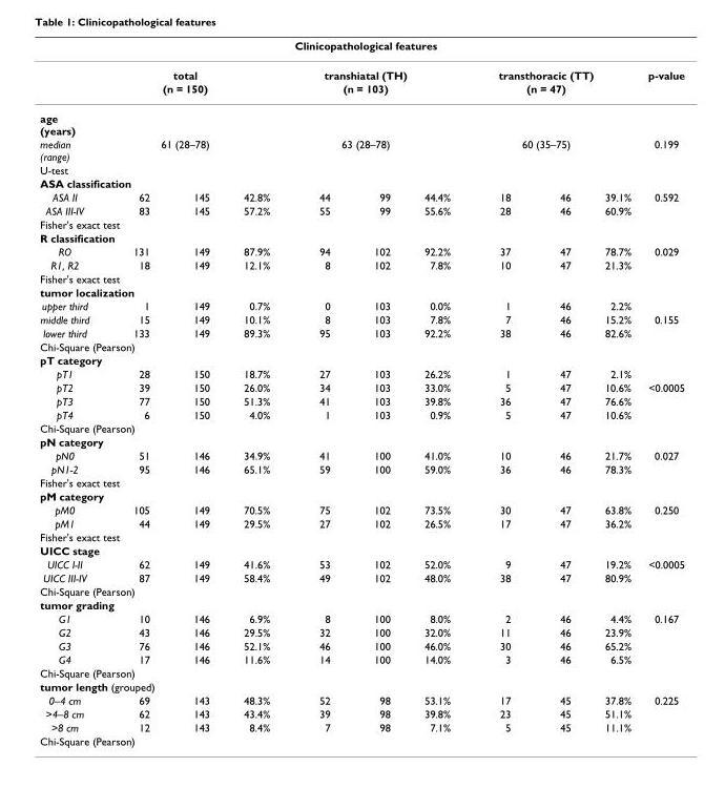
<table><thead><tr><td colspan="11">Clinicopathological features</td></tr><tr><td rowspan="3">age (years)</td><td rowspan="2" colspan="3">total (n = 150)</td><td rowspan="2" colspan="3">transhiatal (TH) (n = 103)</td><td rowspan="2" colspan="3">transthoracic (TT) (n = 47)</td><td rowspan="3">p-value</td></tr><tr></tr><tr><td></td><td></td><td></td><td></td><td></td><td></td><td></td><td></td><td></td></tr></thead><tbody><tr><td>median (range)</td><td colspan="3">61 (28–78)</td><td colspan="3">63 (28–78)</td><td colspan="3">60 (35–75)</td><td>0.199</td></tr><tr><td colspan="11">U-test</td></tr><tr><td colspan="11">ASA classification</td></tr><tr><td>ASA II</td><td>62</td><td>145</td><td>42.8%</td><td>44</td><td>99</td><td>44.4%</td><td>18</td><td>46</td><td>39.1%</td><td>0.592</td></tr><tr><td>ASA III-IV</td><td>83</td><td>145</td><td>57.2%</td><td>55</td><td>99</td><td>55.6%</td><td>28</td><td>46</td><td>60.9%</td><td></td></tr><tr><td colspan="11">Fisher&#x27;s exact test</td></tr><tr><td colspan="11">R classification</td></tr><tr><td>RO</td><td>131</td><td>149</td><td>87.9%</td><td>94</td><td>102</td><td>92.2%</td><td>37</td><td>47</td><td>78.7%</td><td>0.029</td></tr><tr><td>R1, R2</td><td>18</td><td>149</td><td>12.1%</td><td>8</td><td>102</td><td>7.8%</td><td>10</td><td>47</td><td>21.3%</td><td></td></tr><tr><td colspan="11">Fisher&#x27;s exact test</td></tr><tr><td colspan="11">tumor localization</td></tr><tr><td>upper third</td><td>1</td><td>149</td><td>0.7%</td><td>0</td><td>103</td><td>0.0%</td><td>1</td><td>46</td><td>2.2%</td><td></td></tr><tr><td>middle third</td><td>15</td><td>149</td><td>10.1%</td><td>8</td><td>103</td><td>7.8%</td><td>7</td><td>46</td><td>15.2%</td><td>0.155</td></tr><tr><td>lower third</td><td>133</td><td>149</td><td>89.3%</td><td>95</td><td>103</td><td>92.2%</td><td>38</td><td>46</td><td>82.6%</td><td></td></tr><tr><td colspan="11">Chi-Square (Pearson)</td></tr><tr><td colspan="11">pT category</td></tr><tr><td>pT1</td><td>28</td><td>150</td><td>18.7%</td><td>27</td><td>103</td><td>26.2%</td><td>1</td><td>47</td><td>2.1%</td><td></td></tr><tr><td>pT2</td><td>39</td><td>150</td><td>26.0%</td><td>34</td><td>103</td><td>33.0%</td><td>5</td><td>47</td><td>10.6%</td><td>&lt;0.0005</td></tr><tr><td>pT3</td><td>77</td><td>150</td><td>51.3%</td><td>41</td><td>103</td><td>39.8%</td><td>36</td><td>47</td><td>76.6%</td><td></td></tr><tr><td>pT4</td><td>6</td><td>150</td><td>4.0%</td><td>1</td><td>103</td><td>0.9%</td><td>5</td><td>47</td><td>10.6%</td><td></td></tr><tr><td colspan="11">Chi-Square (Pearson)</td></tr><tr><td colspan="11">pN category</td></tr><tr><td>pN0</td><td>51</td><td>146</td><td>34.9%</td><td>41</td><td>100</td><td>41.0%</td><td>10</td><td>46</td><td>21.7%</td><td>0.027</td></tr><tr><td>pN1-2</td><td>95</td><td>146</td><td>65.1%</td><td>59</td><td>100</td><td>59.0%</td><td>36</td><td>46</td><td>78.3%</td><td></td></tr><tr><td colspan="11">Fisher&#x27;s exact test</td></tr><tr><td colspan="11">pM category</td></tr><tr><td>pM0</td><td>105</td><td>149</td><td>70.5%</td><td>75</td><td>102</td><td>73.5%</td><td>30</td><td>47</td><td>63.8%</td><td>0.250</td></tr><tr><td>pM1</td><td>44</td><td>149</td><td>29.5%</td><td>27</td><td>102</td><td>26.5%</td><td>17</td><td>47</td><td>36.2%</td><td></td></tr><tr><td colspan="11">Fisher&#x27;s exact test</td></tr><tr><td colspan="11">UICC stage</td></tr><tr><td>UICC I-II</td><td>62</td><td>149</td><td>41.6%</td><td>53</td><td>102</td><td>52.0%</td><td>9</td><td>47</td><td>19.2%</td><td>&lt;0.0005</td></tr><tr><td>UICC III-IV</td><td>87</td><td>149</td><td>58.4%</td><td>49</td><td>102</td><td>48.0%</td><td>38</td><td>47</td><td>80.9%</td><td></td></tr><tr><td colspan="11">Chi-Square (Pearson)</td></tr><tr><td colspan="11">tumor grading</td></tr><tr><td>G1</td><td>10</td><td>146</td><td>6.9%</td><td>8</td><td>100</td><td>8.0%</td><td>2</td><td>46</td><td>4.4%</td><td>0.167</td></tr><tr><td>G2</td><td>43</td><td>146</td><td>29.5%</td><td>32</td><td>100</td><td>32.0%</td><td>11</td><td>46</td><td>23.9%</td><td></td></tr><tr><td>G3</td><td>76</td><td>146</td><td>52.1%</td><td>46</td><td>100</td><td>46.0%</td><td>30</td><td>46</td><td>65.2%</td><td></td></tr><tr><td>G4</td><td>17</td><td>146</td><td>11.6%</td><td>14</td><td>100</td><td>14.0%</td><td>3</td><td>46</td><td>6.5%</td><td></td></tr><tr><td colspan="11">Chi-Square (Pearson)</td></tr><tr><td colspan="11">tumor length (grouped)</td></tr><tr><td>0–4 cm</td><td>69</td><td>143</td><td>48.3%</td><td>52</td><td>98</td><td>53.1%</td><td>17</td><td>45</td><td>37.8%</td><td>0.225</td></tr><tr><td>&gt;4–8 cm</td><td>62</td><td>143</td><td>43.4%</td><td>39</td><td>98</td><td>39.8%</td><td>23</td><td>45</td><td>51.1%</td><td></td></tr><tr><td>&gt;8 cm</td><td>12</td><td>143</td><td>8.4%</td><td>7</td><td>98</td><td>7.1%</td><td>5</td><td>45</td><td>11.1%</td><td></td></tr><tr><td colspan="11">Chi-Square (Pearson)</td></tr></tbody></table>